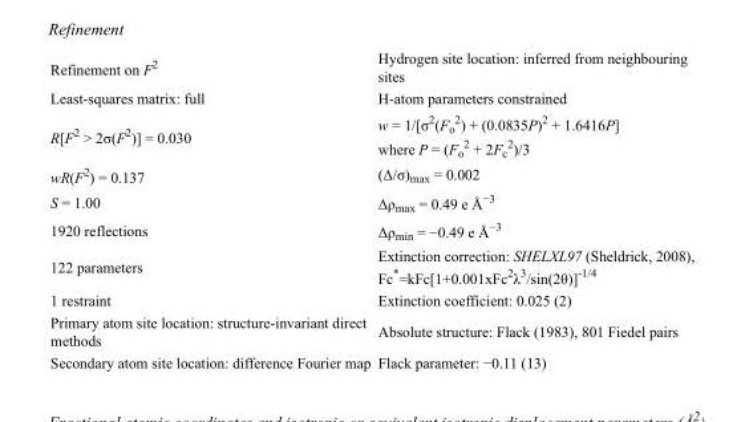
<table><tbody><tr><td>Refinement on F<sup>2</sup></td><td>Hydrogen site location: inferred from neighbouring sites</td></tr><tr><td>Least-squares matrix: full</td><td>H-atom parameters constrained</td></tr><tr><td>R[F<sup>2</sup> &gt; 2σ(F<sup>2</sup>)] = 0.030</td><td>w = 1/[σ<sup>2</sup>(F<sub>o</sub> <sup>2</sup>) + (0.0835P)<sup>2</sup> + 1.6416P] where P = (F<sub>o</sub> <sup>2</sup> + 2F<sub>c</sub> <sup>2</sup>)/3</td></tr><tr><td>wR(F<sup>2</sup>) = 0.137</td><td>(Δ/σ)<sub>max</sub> = 0.002</td></tr><tr><td>S = 1.00</td><td>Δρ<sub>max</sub> = 0.49 e Å<sup>−3</sup></td></tr><tr><td>1920 reflections</td><td>Δρ<sub>min</sub> = −0.49 e Å<sup>−3</sup></td></tr><tr><td>122 parameters</td><td>Extinction correction: SHELXL97 (Sheldrick, 2008), Fc*=kFc[1+0.001xFc<sup>2</sup>λ<sup>3</sup>/sin(2θ)]<sup>-1/4</sup></td></tr><tr><td>1 restraint</td><td>Extinction coefficient: 0.025 (2)</td></tr><tr><td>Primary atom site location: structure-invariant direct methods</td><td>Absolute structure: Flack (1983), 801 Fiedel pairs</td></tr><tr><td>Secondary atom site location: difference Fourier map</td><td>Flack parameter: −0.11 (13)</td></tr></tbody></table>